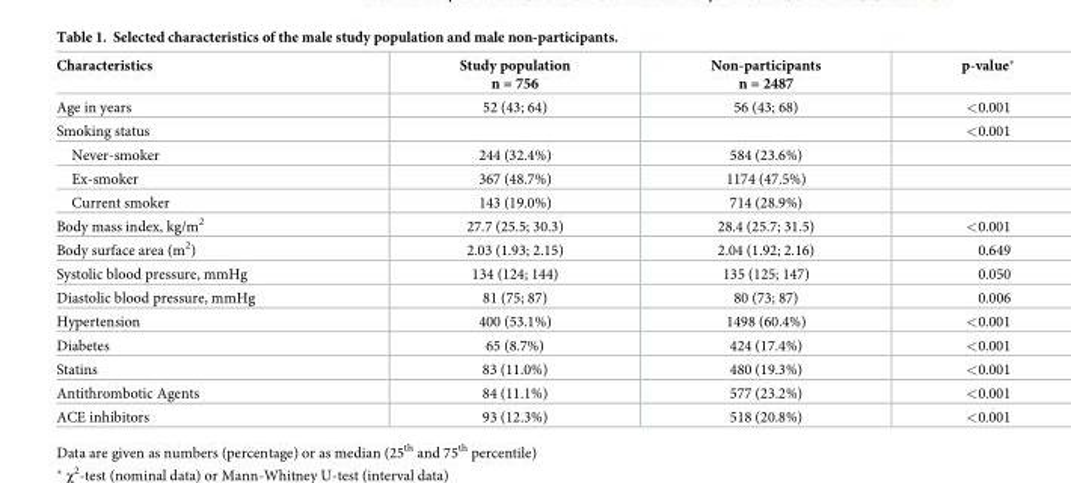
<table><thead><tr><td>Characteristics</td><td>Study population n = 756</td><td>Non-participants n = 2487</td><td>p-value*</td></tr></thead><tbody><tr><td>Age in years</td><td>52 (43; 64)</td><td>56 (43; 68)</td><td>&lt;0.001</td></tr><tr><td>Smoking status</td><td></td><td></td><td>&lt;0.001</td></tr><tr><td>Never-smoker</td><td>244 (32.4%)</td><td>584 (23.6%)</td><td></td></tr><tr><td>Ex-smoker</td><td>367 (48.7%)</td><td>1174 (47.5%)</td><td></td></tr><tr><td>Current smoker</td><td>143 (19.0%)</td><td>714 (28.9%)</td><td></td></tr><tr><td>Body mass index, kg/m<sup>2</sup></td><td>27.7 (25.5; 30.3)</td><td>28.4 (25.7; 31.5)</td><td>&lt;0.001</td></tr><tr><td>Body surface area (m<sup>2</sup>)</td><td>2.03 (1.93; 2.15)</td><td>2.04 (1.92; 2.16)</td><td>0.649</td></tr><tr><td>Systolic blood pressure, mmHg</td><td>134 (124; 144)</td><td>135 (125; 147)</td><td>0.050</td></tr><tr><td>Diastolic blood pressure, mmHg</td><td>81 (75; 87)</td><td>80 (73; 87)</td><td>0.006</td></tr><tr><td>Hypertension</td><td>400 (53.1%)</td><td>1498 (60.4%)</td><td>&lt;0.001</td></tr><tr><td>Diabetes</td><td>65 (8.7%)</td><td>424 (17.4%)</td><td>&lt;0.001</td></tr><tr><td>Statins</td><td>83 (11.0%)</td><td>480 (19.3%)</td><td>&lt;0.001</td></tr><tr><td>Antithrombotic Agents</td><td>84 (11.1%)</td><td>577 (23.2%)</td><td>&lt;0.001</td></tr><tr><td>ACE inhibitors</td><td>93 (12.3%)</td><td>518 (20.8%)</td><td>&lt;0.001</td></tr></tbody></table>